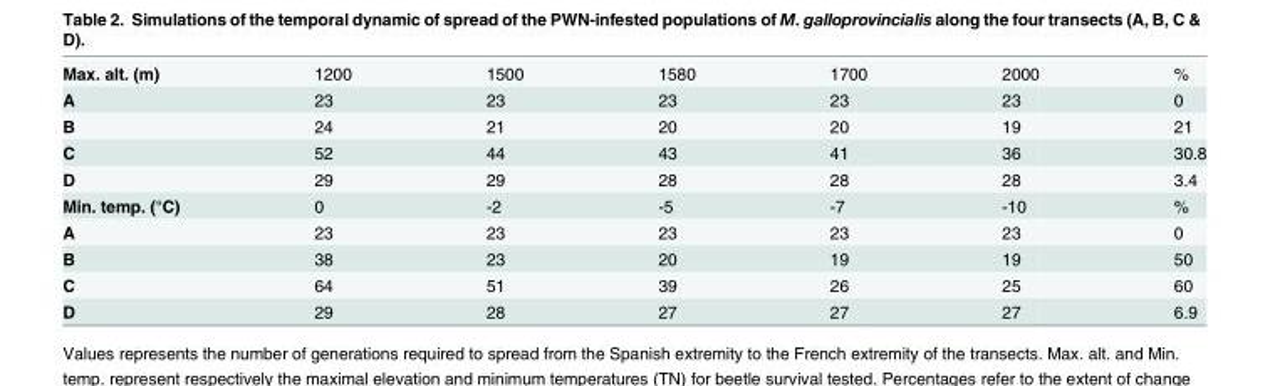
<table><tbody><tr><td>Max. alt. (m)</td><td>1200</td><td>1500</td><td>1580</td><td>1700</td><td>2000</td><td>%</td></tr><tr><td>A</td><td>23</td><td>23</td><td>23</td><td>23</td><td>23</td><td>0</td></tr><tr><td>B</td><td>24</td><td>21</td><td>20</td><td>20</td><td>19</td><td>21</td></tr><tr><td>C</td><td>52</td><td>44</td><td>43</td><td>41</td><td>36</td><td>30.8</td></tr><tr><td>D</td><td>29</td><td>29</td><td>28</td><td>28</td><td>28</td><td>3.4</td></tr><tr><td>Min. temp. (°C)</td><td>0</td><td>-2</td><td>-5</td><td>-7</td><td>-10</td><td>%</td></tr><tr><td>A</td><td>23</td><td>23</td><td>23</td><td>23</td><td>23</td><td>0</td></tr><tr><td>B</td><td>38</td><td>23</td><td>20</td><td>19</td><td>19</td><td>50</td></tr><tr><td>C</td><td>64</td><td>51</td><td>39</td><td>26</td><td>25</td><td>60</td></tr><tr><td>D</td><td>29</td><td>28</td><td>27</td><td>27</td><td>27</td><td>6.9</td></tr></tbody></table>